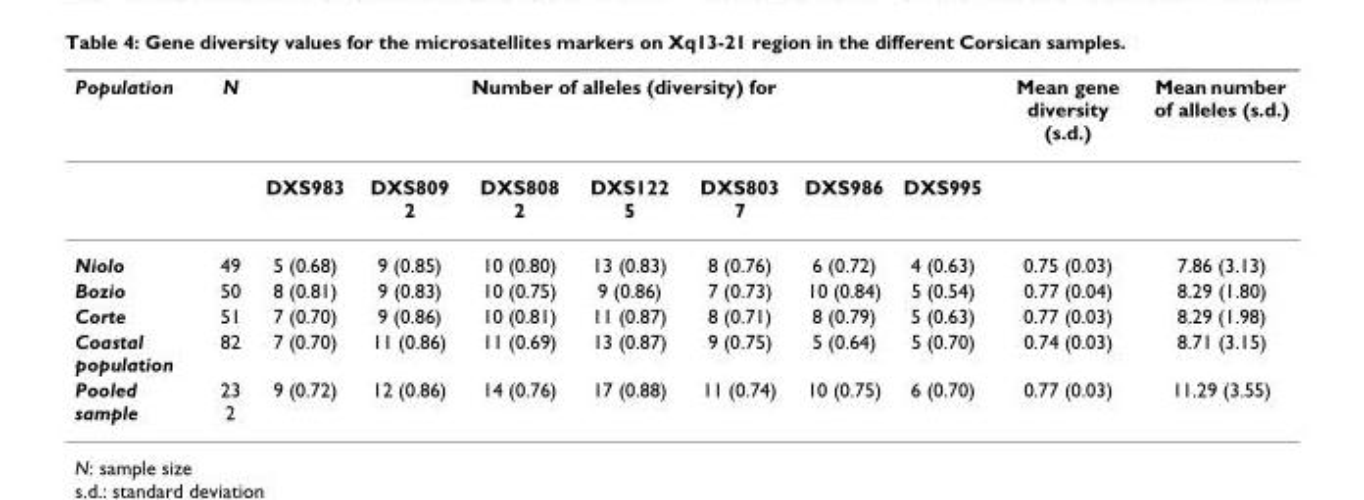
<table><thead><tr><td rowspan="2">Population</td><td rowspan="2">N</td><td colspan="7">Number of alleles (diversity) for</td><td rowspan="2">Mean gene diversity (s.d.)</td><td rowspan="2">Mean number of alleles (s.d.)</td></tr><tr><td>DXS983</td><td>DXS809 2</td><td>DXS808 2</td><td>DXS122 5</td><td>DXS803 7</td><td>DXS986</td><td>DXS995</td></tr></thead><tbody><tr><td>Niolo</td><td>49</td><td>5 (0.68)</td><td>9 (0.85)</td><td>10 (0.80)</td><td>13 (0.83)</td><td>8 (0.76)</td><td>6 (0.72)</td><td>4 (0.63)</td><td>0.75 (0.03)</td><td>7.86 (3.13)</td></tr><tr><td>Bozio</td><td>50</td><td>8 (0.81)</td><td>9 (0.83)</td><td>10 (0.75)</td><td>9 (0.86)</td><td>7 (0.73)</td><td>10 (0.84)</td><td>5 (0.54)</td><td>0.77 (0.04)</td><td>8.29 (1.80)</td></tr><tr><td>Corte</td><td>51</td><td>7 (0.70)</td><td>9 (0.86)</td><td>10 (0.81)</td><td>11 (0.87)</td><td>8 (0.71)</td><td>8 (0.79)</td><td>5 (0.63)</td><td>0.77 (0.03)</td><td>8.29 (1.98)</td></tr><tr><td>Coastal population</td><td>82</td><td>7 (0.70)</td><td>11 (0.86)</td><td>11 (0.69)</td><td>13 (0.87)</td><td>9 (0.75)</td><td>5 (0.64)</td><td>5 (0.70)</td><td>0.74 (0.03)</td><td>8.71 (3.15)</td></tr><tr><td>Pooled sample</td><td>23 2</td><td>9 (0.72)</td><td>12 (0.86)</td><td>14 (0.76)</td><td>17 (0.88)</td><td>11 (0.74)</td><td>10 (0.75)</td><td>6 (0.70)</td><td>0.77 (0.03)</td><td>11.29 (3.55)</td></tr></tbody></table>